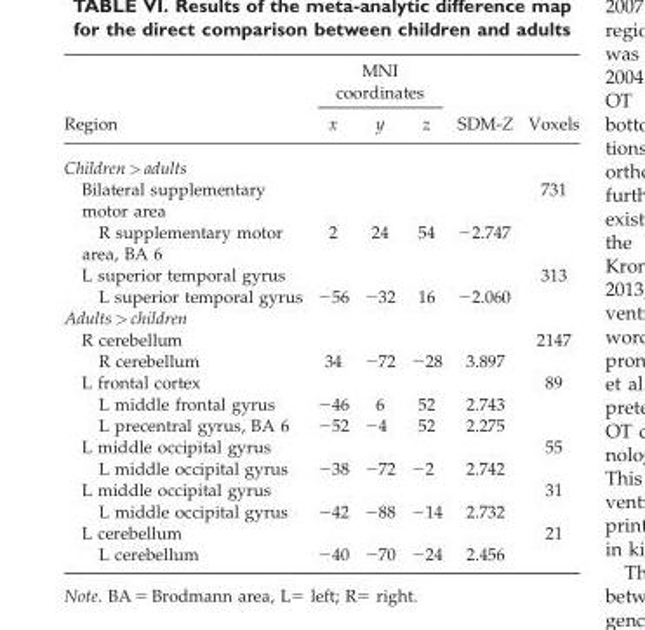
<table><thead><tr><td rowspan="2">Region</td><td colspan="3">MNI coordinates</td><td rowspan="2">SDM-Z</td><td rowspan="2">Voxels</td></tr><tr><td>x</td><td>y</td><td>z</td></tr></thead><tbody><tr><td colspan="6">Children &gt; adults</td></tr><tr><td>Bilateral supplementary motor area</td><td></td><td></td><td></td><td></td><td>731</td></tr><tr><td>R supplementary motor area, BA 6</td><td>2</td><td>24</td><td>54</td><td>−2.747</td><td></td></tr><tr><td>L superior temporal gyrus</td><td></td><td></td><td></td><td></td><td>313</td></tr><tr><td>L superior temporal gyrus</td><td>−56</td><td>−32</td><td>16</td><td>−2.060</td><td></td></tr><tr><td colspan="6">Adults &gt; children</td></tr><tr><td>R cerebellum</td><td></td><td></td><td></td><td></td><td>2147</td></tr><tr><td>R cerebellum</td><td>34</td><td>−72</td><td>−28</td><td>3.897</td><td></td></tr><tr><td>L frontal cortex</td><td></td><td></td><td></td><td></td><td>89</td></tr><tr><td>L middle frontal gyrus</td><td>−46</td><td>6</td><td>52</td><td>2.743</td><td></td></tr><tr><td>L precentral gyrus, BA 6</td><td>−52</td><td>−4</td><td>52</td><td>2.275</td><td></td></tr><tr><td>L middle occipital gyrus</td><td></td><td></td><td></td><td></td><td>55</td></tr><tr><td>L middle occipital gyrus</td><td>−38</td><td>−72</td><td>−2</td><td>2.742</td><td></td></tr><tr><td>L middle occipital gyrus</td><td></td><td></td><td></td><td></td><td>31</td></tr><tr><td>L middle occipital gyrus</td><td>−42</td><td>−88</td><td>−14</td><td>2.732</td><td></td></tr><tr><td>L cerebellum</td><td></td><td></td><td></td><td></td><td>21</td></tr><tr><td>L cerebellum</td><td>−40</td><td>−70</td><td>−24</td><td>2.456</td><td></td></tr></tbody></table>